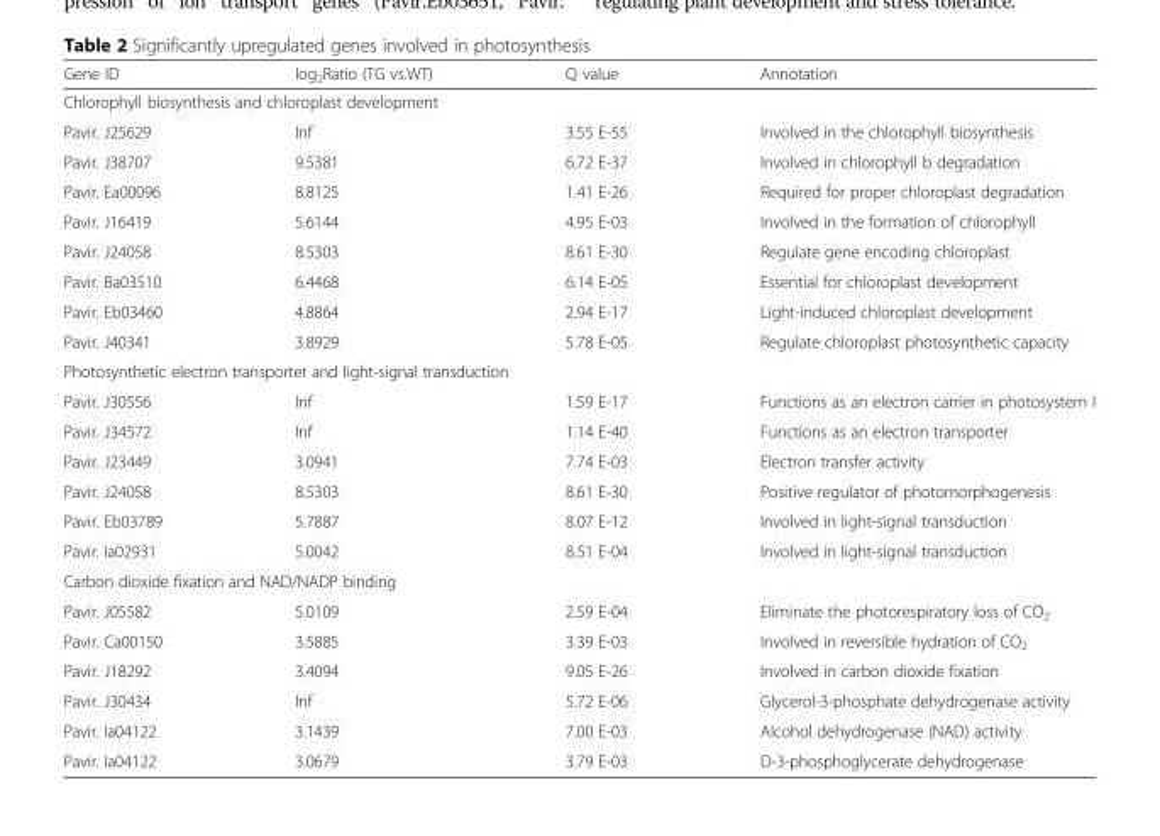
<table><thead><tr><td>Gene ID</td><td>log<sub>2</sub>Ratio (TG vs.WT)</td><td>Q value</td><td>Annotation</td></tr></thead><tbody><tr><td colspan="4">Chlorophyll biosynthesis and chloroplast development</td></tr><tr><td>Pavir. J25629</td><td>Inf</td><td>3.55 E-55</td><td>Involved in the chlorophyll biosynthesis</td></tr><tr><td>Pavir. J38707</td><td>9.5381</td><td>6.72 E-37</td><td>Involved in chlorophyll b degradation</td></tr><tr><td>Pavir. Ea00096</td><td>8.8125</td><td>1.41 E-26</td><td>Required for proper chloroplast degradation</td></tr><tr><td>Pavir. J16419</td><td>5.6144</td><td>4.95 E-03</td><td>Involved in the formation of chlorophyll</td></tr><tr><td>Pavir. J24058</td><td>8.5303</td><td>8.61 E-30</td><td>Regulate gene encoding chloroplast</td></tr><tr><td>Pavir. Ba03510</td><td>6.4468</td><td>6.14 E-05</td><td>Essential for chloroplast development</td></tr><tr><td>Pavir. Eb03460</td><td>4.8864</td><td>2.94 E-17</td><td>Light-induced chloroplast development</td></tr><tr><td>Pavir. J40341</td><td>3.8929</td><td>5.78 E-05</td><td>Regulate chloroplast photosynthetic capacity</td></tr><tr><td colspan="4">Photosynthetic electron transporter and light-signal transduction</td></tr><tr><td>Pavir. J30556</td><td>Inf</td><td>1.59 E-17</td><td>Functions as an electron carrier in photosystem I</td></tr><tr><td>Pavir. J34572</td><td>Inf</td><td>1.14 E-40</td><td>Functions as an electron transporter</td></tr><tr><td>Pavir. J23449</td><td>3.0941</td><td>7.74 E-03</td><td>Electron transfer activity</td></tr><tr><td>Pavir. J24058</td><td>8.5303</td><td>8.61 E-30</td><td>Positive regulator of photomorphogenesis</td></tr><tr><td>Pavir. Eb03789</td><td>5.7887</td><td>8.07 E-12</td><td>Involved in light-signal transduction</td></tr><tr><td>Pavir. Ia02931</td><td>5.0042</td><td>8.51 E-04</td><td>Involved in light-signal transduction</td></tr><tr><td colspan="4">Carbon dioxide fixation and NAD/NADP binding</td></tr><tr><td>Pavir. J05582</td><td>5.0109</td><td>2.59 E-04</td><td>Eliminate the photorespiratory loss of CO<sub>2</sub></td></tr><tr><td>Pavir. Ca00150</td><td>3.5885</td><td>3.39 E-03</td><td>Involved in reversible hydration of CO<sub>2</sub></td></tr><tr><td>Pavir. J18292</td><td>3.4094</td><td>9.05 E-26</td><td>Involved in carbon dioxide fixation</td></tr><tr><td>Pavir. J30434</td><td>Inf</td><td>5.72 E-06</td><td>Glycerol-3-phosphate dehydrogenase activity</td></tr><tr><td>Pavir. Ia04122</td><td>3.1439</td><td>7.00 E-03</td><td>Alcohol dehydrogenase (NAD) activity</td></tr><tr><td>Pavir. Ia04122</td><td>3.0679</td><td>3.79 E-03</td><td>D-3-phosphoglycerate dehydrogenase</td></tr></tbody></table>